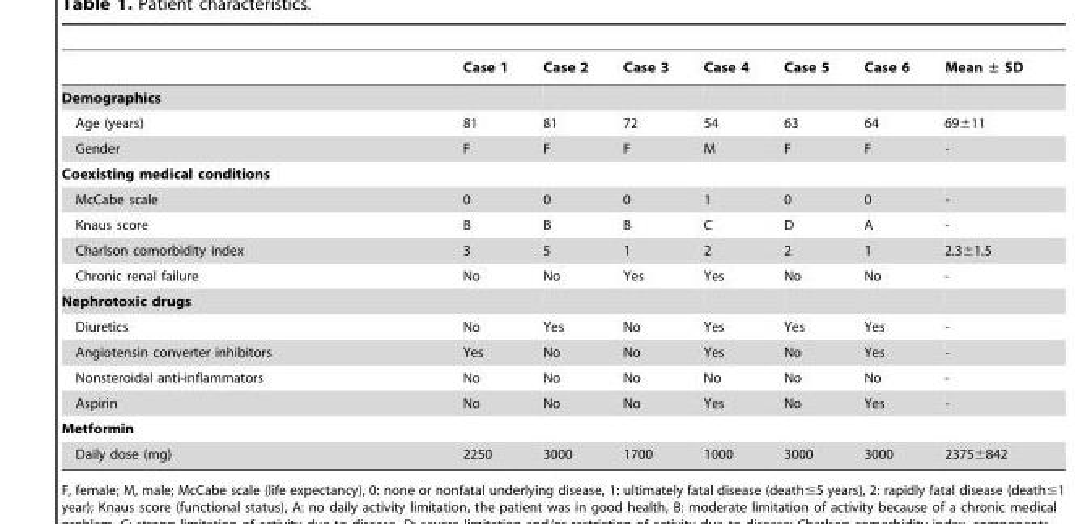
<table><thead><tr><td></td><td>Case 1</td><td>Case 2</td><td>Case 3</td><td>Case 4</td><td>Case 5</td><td>Case 6</td><td>Mean ± SD</td></tr></thead><tbody><tr><td colspan="8">Demographics</td></tr><tr><td>Age (years)</td><td>81</td><td>81</td><td>72</td><td>54</td><td>63</td><td>64</td><td>69±11</td></tr><tr><td>Gender</td><td>F</td><td>F</td><td>F</td><td>M</td><td>F</td><td>F</td><td>-</td></tr><tr><td colspan="8">Coexisting medical conditions</td></tr><tr><td>McCabe scale</td><td>0</td><td>0</td><td>0</td><td>1</td><td>0</td><td>0</td><td>-</td></tr><tr><td>Knaus score</td><td>B</td><td>B</td><td>B</td><td>C</td><td>D</td><td>A</td><td>-</td></tr><tr><td>Charlson comorbidity index</td><td>3</td><td>5</td><td>1</td><td>2</td><td>2</td><td>1</td><td>2.3±1.5</td></tr><tr><td>Chronic renal failure</td><td>No</td><td>No</td><td>Yes</td><td>Yes</td><td>No</td><td>No</td><td>-</td></tr><tr><td colspan="8">Nephrotoxic drugs</td></tr><tr><td>Diuretics</td><td>No</td><td>Yes</td><td>No</td><td>Yes</td><td>Yes</td><td>Yes</td><td>-</td></tr><tr><td>Angiotensin converter inhibitors</td><td>Yes</td><td>No</td><td>No</td><td>Yes</td><td>No</td><td>Yes</td><td>-</td></tr><tr><td>Nonsteroidal anti-inflammators</td><td>No</td><td>No</td><td>No</td><td>No</td><td>No</td><td>No</td><td>-</td></tr><tr><td>Aspirin</td><td>No</td><td>No</td><td>No</td><td>Yes</td><td>No</td><td>Yes</td><td>-</td></tr><tr><td colspan="8">Metformin</td></tr><tr><td>Daily dose (mg)</td><td>2250</td><td>3000</td><td>1700</td><td>1000</td><td>3000</td><td>3000</td><td>2375±842</td></tr></tbody></table>